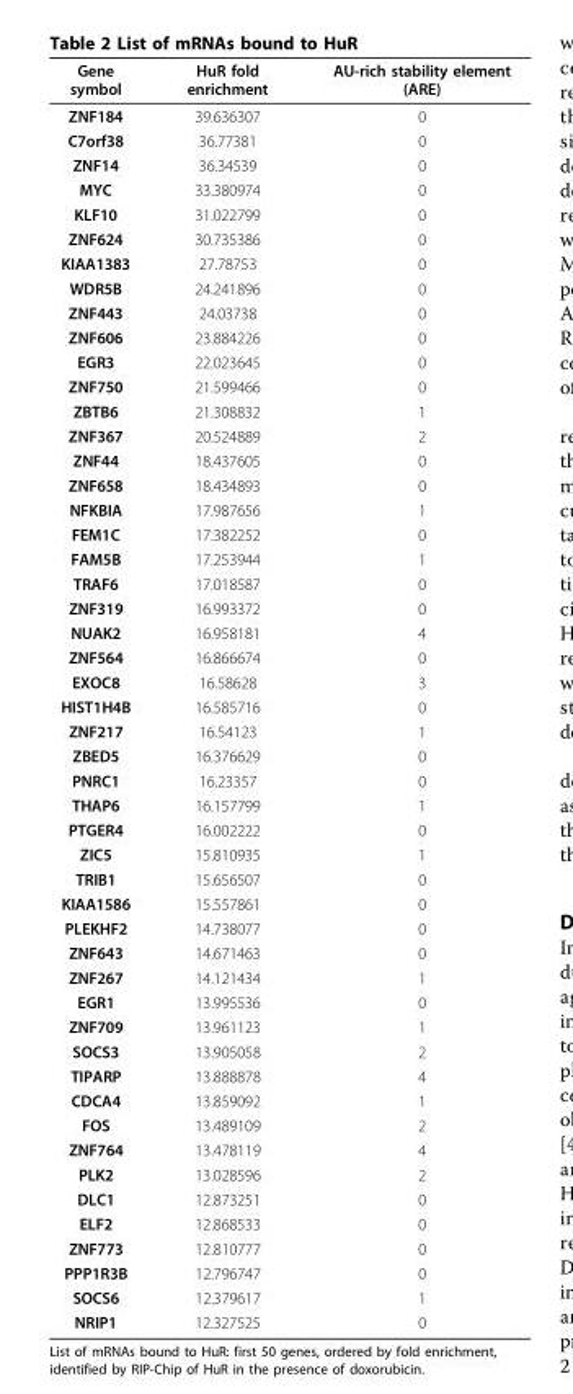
<table><thead><tr><td>Gene symbol</td><td>HuR fold enrichment</td><td>AU-rich stability element (ARE)</td></tr></thead><tbody><tr><td>ZNF184</td><td>39.636307</td><td>0</td></tr><tr><td>C7orf38</td><td>36.77381</td><td>0</td></tr><tr><td>ZNF14</td><td>36.34539</td><td>0</td></tr><tr><td>MYC</td><td>33.380974</td><td>0</td></tr><tr><td>KLF10</td><td>31.022799</td><td>0</td></tr><tr><td>ZNF624</td><td>30.735386</td><td>0</td></tr><tr><td>KIAA1383</td><td>27.78753</td><td>0</td></tr><tr><td>WDR5B</td><td>24.241896</td><td>0</td></tr><tr><td>ZNF443</td><td>24.03738</td><td>0</td></tr><tr><td>ZNF606</td><td>23.884226</td><td>0</td></tr><tr><td>EGR3</td><td>22.023645</td><td>0</td></tr><tr><td>ZNF750</td><td>21.599466</td><td>0</td></tr><tr><td>ZBTB6</td><td>21.308832</td><td>1</td></tr><tr><td>ZNF367</td><td>20.524889</td><td>2</td></tr><tr><td>ZNF44</td><td>18.437605</td><td>0</td></tr><tr><td>ZNF658</td><td>18.434893</td><td>0</td></tr><tr><td>NFKBIA</td><td>17.987656</td><td>1</td></tr><tr><td>FEM1C</td><td>17.382252</td><td>0</td></tr><tr><td>FAM5B</td><td>17.253944</td><td>1</td></tr><tr><td>TRAF6</td><td>17.018587</td><td>0</td></tr><tr><td>ZNF319</td><td>16.993372</td><td>0</td></tr><tr><td>NUAK2</td><td>16.958181</td><td>4</td></tr><tr><td>ZNF564</td><td>16.866674</td><td>0</td></tr><tr><td>EXOC8</td><td>16.58628</td><td>3</td></tr><tr><td>HIST1H4B</td><td>16.585716</td><td>0</td></tr><tr><td>ZNF217</td><td>16.54123</td><td>1</td></tr><tr><td>ZBED5</td><td>16.376629</td><td>0</td></tr><tr><td>PNRC1</td><td>16.23357</td><td>0</td></tr><tr><td>THAP6</td><td>16.157799</td><td>1</td></tr><tr><td>PTGER4</td><td>16.002222</td><td>0</td></tr><tr><td>ZIC5</td><td>15.810935</td><td>1</td></tr><tr><td>TRIB1</td><td>15.656507</td><td>0</td></tr><tr><td>KIAA1586</td><td>15.557861</td><td>0</td></tr><tr><td>PLEKHF2</td><td>14.738077</td><td>0</td></tr><tr><td>ZNF643</td><td>14.671463</td><td>0</td></tr><tr><td>ZNF267</td><td>14.121434</td><td>1</td></tr><tr><td>EGR1</td><td>13.995536</td><td>0</td></tr><tr><td>ZNF709</td><td>13.961123</td><td>1</td></tr><tr><td>SOCS3</td><td>13.905058</td><td>2</td></tr><tr><td>TIPARP</td><td>13.888878</td><td>4</td></tr><tr><td>CDCA4</td><td>13.859092</td><td>1</td></tr><tr><td>FOS</td><td>13.489109</td><td>2</td></tr><tr><td>ZNF764</td><td>13.478119</td><td>4</td></tr><tr><td>PLK2</td><td>13.028596</td><td>2</td></tr><tr><td>DLC1</td><td>12.873251</td><td>0</td></tr><tr><td>ELF2</td><td>12.868533</td><td>0</td></tr><tr><td>ZNF773</td><td>12.810777</td><td>0</td></tr><tr><td>PPP1R3B</td><td>12.796747</td><td>0</td></tr><tr><td>SOCS6</td><td>12.379617</td><td>1</td></tr><tr><td>NRIP1</td><td>12.327525</td><td>0</td></tr></tbody></table>